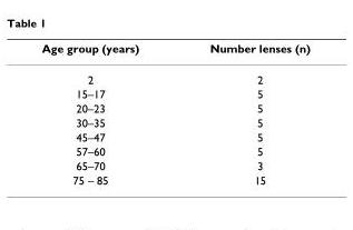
<table><thead><tr><td>Age group (years)</td><td>Number lenses (n)</td></tr></thead><tbody><tr><td>2</td><td>2</td></tr><tr><td>15–17</td><td>5</td></tr><tr><td>20–23</td><td>5</td></tr><tr><td>30–35</td><td>5</td></tr><tr><td>45–47</td><td>5</td></tr><tr><td>57–60</td><td>5</td></tr><tr><td>65–70</td><td>3</td></tr><tr><td>75 – 85</td><td>15</td></tr></tbody></table>